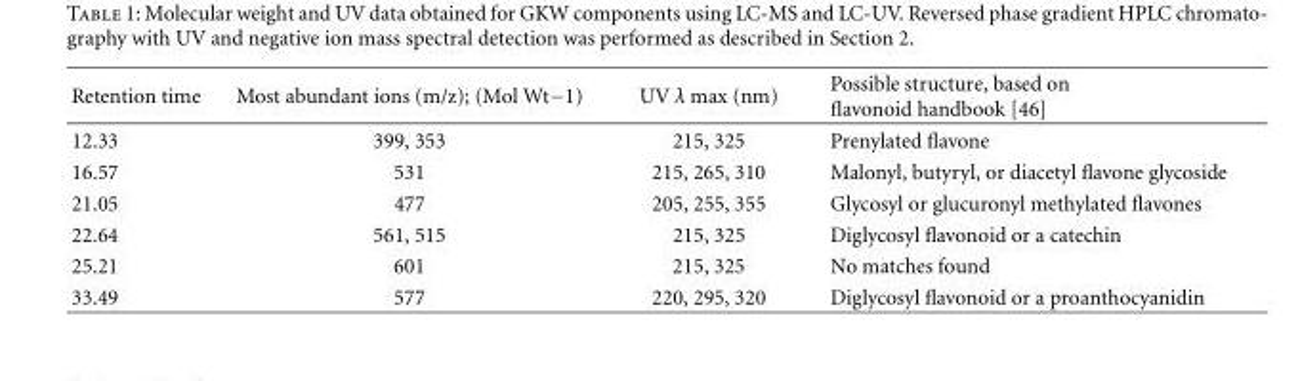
<table><thead><tr><td>Retention time</td><td>Most abundant ions (m/z); (Mol Wt−1)</td><td>UV λ max (nm)</td><td>Possible structure, based on flavonoid handbook [46]</td></tr></thead><tbody><tr><td>12.33</td><td>399, 353</td><td>215, 325</td><td>Prenylated flavone</td></tr><tr><td>16.57</td><td>531</td><td>215, 265, 310</td><td>Malonyl, butyryl, or diacetyl flavone glycoside</td></tr><tr><td>21.05</td><td>477</td><td>205, 255, 355</td><td>Glycosyl or glucuronyl methylated flavones</td></tr><tr><td>22.64</td><td>561, 515</td><td>215, 325</td><td>Diglycosyl flavonoid or a catechin</td></tr><tr><td>25.21</td><td>601</td><td>215, 325</td><td>No matches found</td></tr><tr><td>33.49</td><td>577</td><td>220, 295, 320</td><td>Diglycosyl flavonoid or a proanthocyanidin</td></tr></tbody></table>